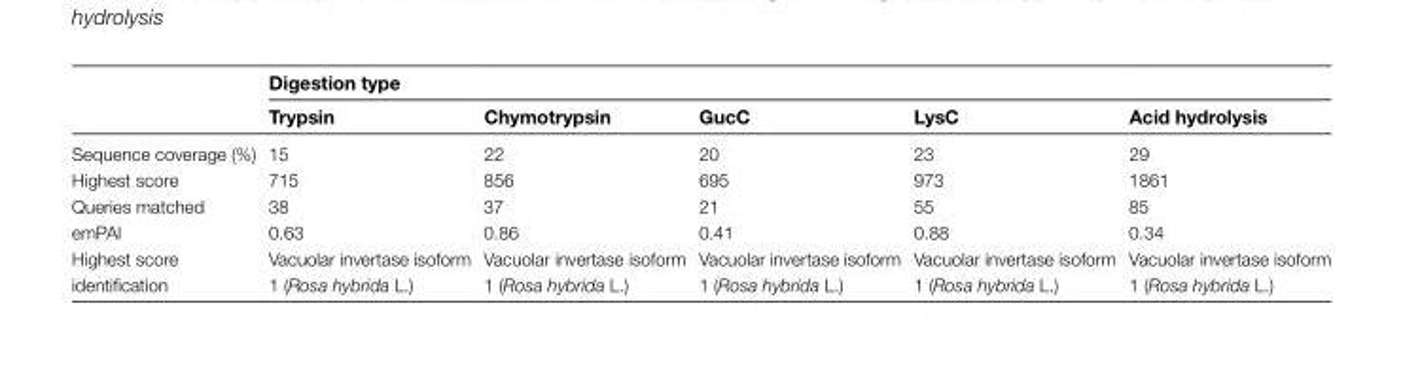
<table><thead><tr><td rowspan="2"></td><td colspan="5">Digestion type</td></tr><tr><td>Trypsin</td><td>Chymotrypsin</td><td>GucC</td><td>LysC</td><td>Acid hydrolysis</td></tr></thead><tbody><tr><td>Sequence coverage (%)</td><td>15</td><td>22</td><td>20</td><td>23</td><td>29</td></tr><tr><td>Highest score</td><td>715</td><td>856</td><td>695</td><td>973</td><td>1861</td></tr><tr><td>Queries matched</td><td>38</td><td>37</td><td>21</td><td>55</td><td>85</td></tr><tr><td>emPAI</td><td>0.63</td><td>0.86</td><td>0.41</td><td>0.88</td><td>0.34</td></tr><tr><td>Highest score identification</td><td>Vacuolar invertase isoform 1 (Rosa hybrida L.)</td><td>Vacuolar invertase isoform 1 (Rosa hybrida L.)</td><td>Vacuolar invertase isoform 1 (Rosa hybrida L.)</td><td>Vacuolar invertase isoform 1 (Rosa hybrida L.)</td><td>Vacuolar invertase isoform 1 (Rosa hybrida L.)</td></tr></tbody></table>